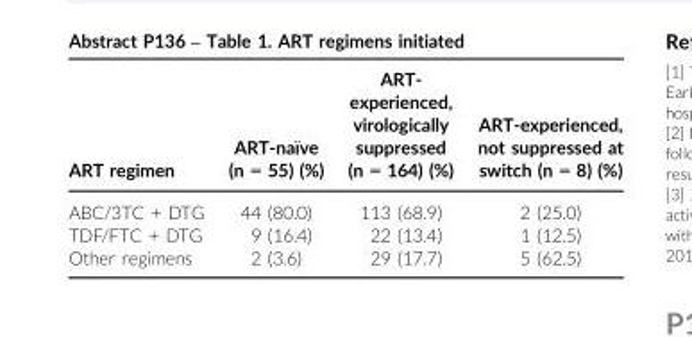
<table><thead><tr><td>ART regimen</td><td>ART-na€ıve (n = 55) (%)</td><td>ART- experienced, virologically suppressed (n = 164) (%)</td><td>ART-experienced, not suppressed at switch (n = 8) (%)</td></tr></thead><tbody><tr><td>ABC/3TC + DTG</td><td>44 (80.0)</td><td>113 (68.9)</td><td>2 (25.0)</td></tr><tr><td>TDF/FTC + DTG</td><td>9 (16.4)</td><td>22 (13.4)</td><td>1 (12.5)</td></tr><tr><td>Other regimens</td><td>2 (3.6)</td><td>29 (17.7)</td><td>5 (62.5)</td></tr></tbody></table>